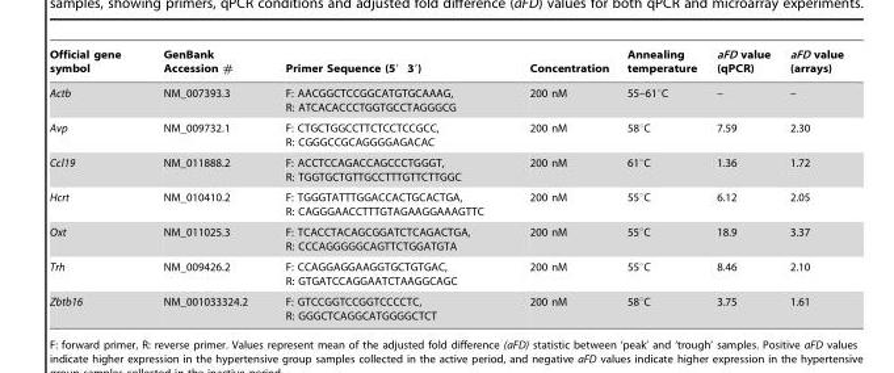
<table><thead><tr><td>Official gene symbol</td><td>GenBank Accession #</td><td>Primer Sequence (59 39)</td><td>Concentration</td><td>Annealing temperature</td><td>aFD value (qPCR)</td><td>aFD value (arrays)</td></tr></thead><tbody><tr><td>Actb</td><td>NM_007393.3</td><td>F: AACGGCTCCGGCATGTGCAAAG, R: ATCACACCCTGGTGCCTAGGGCG</td><td>200 nM</td><td>55–61°C</td><td>–</td><td>–</td></tr><tr><td>Avp</td><td>NM_009732.1</td><td>F: CTGCTGGCCTTCTCCTCCGCC, R: CGGGCCGCAGGGGAGACAC</td><td>200 nM</td><td>58°C</td><td>7.59</td><td>2.30</td></tr><tr><td>Ccl19</td><td>NM_011888.2</td><td>F: ACCTCCAGACCAGCCCTGGGT, R: TGGTGCTGTTGCCTTTGTTCTTGGC</td><td>200 nM</td><td>61°C</td><td>1.36</td><td>1.72</td></tr><tr><td>Hcrt</td><td>NM_010410.2</td><td>F: TGGGTATTTGGACCACTGCACTGA, R: CAGGGAACCTTTGTAGAAGGAAAGTTC</td><td>200 nM</td><td>55°C</td><td>6.12</td><td>2.05</td></tr><tr><td>Oxt</td><td>NM_011025.3</td><td>F: TCACCTACAGCGGATCTCAGACTGA, R: CCCAGGGGGCAGTTCTGGATGTA</td><td>200 nM</td><td>55°C</td><td>18.9</td><td>3.37</td></tr><tr><td>Trh</td><td>NM_009426.2</td><td>F: CCAGGAGGAAGGTGCTGTGAC, R: GTGATCCAGGAATCTAAGGCAGC</td><td>200 nM</td><td>55°C</td><td>8.46</td><td>2.10</td></tr><tr><td>Zbtb16</td><td>NM_001033324.2</td><td>F: GTCCGGTCCGGTCCCCTC, R: GGGCTCAGGCATGGGGCTCT</td><td>200 nM</td><td>58°C</td><td>3.75</td><td>1.61</td></tr></tbody></table>